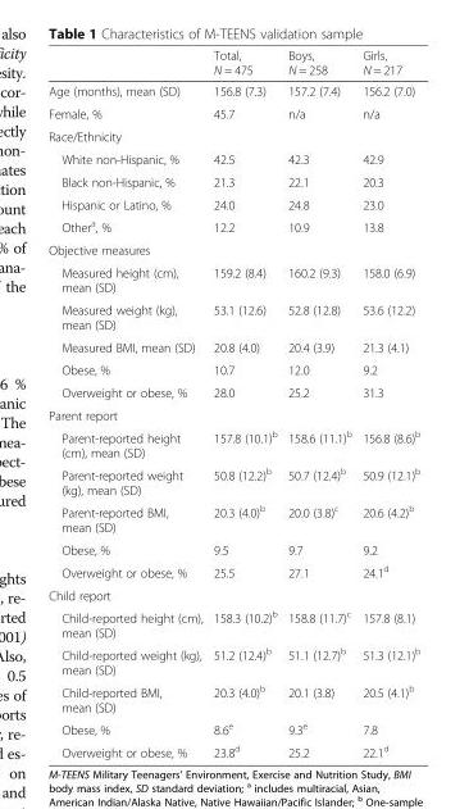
<table><thead><tr><td></td><td>Total, N = 475</td><td>Boys, N = 258</td><td>Girls, N = 217</td></tr></thead><tbody><tr><td>Age (months), mean (SD)</td><td>156.8 (7.3)</td><td>157.2 (7.4)</td><td>156.2 (7.0)</td></tr><tr><td>Female, %</td><td>45.7</td><td>n/a</td><td>n/a</td></tr><tr><td colspan="4">Race/Ethnicity</td></tr><tr><td>White non-Hispanic, %</td><td>42.5</td><td>42.3</td><td>42.9</td></tr><tr><td>Black non-Hispanic, %</td><td>21.3</td><td>22.1</td><td>20.3</td></tr><tr><td>Hispanic or Latino, %</td><td>24.0</td><td>24.8</td><td>23.0</td></tr><tr><td>Other<sup>a</sup>, %</td><td>12.2</td><td>10.9</td><td>13.8</td></tr><tr><td colspan="4">Objective measures</td></tr><tr><td>Measured height (cm), mean (SD)</td><td>159.2 (8.4)</td><td>160.2 (9.3)</td><td>158.0 (6.9)</td></tr><tr><td>Measured weight (kg), mean (SD)</td><td>53.1 (12.6)</td><td>52.8 (12.8)</td><td>53.6 (12.2)</td></tr><tr><td>Measured BMI, mean (SD)</td><td>20.8 (4.0)</td><td>20.4 (3.9)</td><td>21.3 (4.1)</td></tr><tr><td>Obese, %</td><td>10.7</td><td>12.0</td><td>9.2</td></tr><tr><td>Overweight or obese, %</td><td>28.0</td><td>25.2</td><td>31.3</td></tr><tr><td colspan="4">Parent report</td></tr><tr><td>Parent-reported height (cm), mean (SD)</td><td>157.8 (10.1)<sup>b</sup></td><td>158.6 (11.1)<sup>b</sup></td><td>156.8 (8.6)<sup>b</sup></td></tr><tr><td>Parent-reported weight (kg), mean (SD)</td><td>50.8 (12.2)<sup>b</sup></td><td>50.7 (12.4)<sup>b</sup></td><td>50.9 (12.1)<sup>b</sup></td></tr><tr><td>Parent-reported BMI, mean (SD)</td><td>20.3 (4.0)<sup>b</sup></td><td>20.0 (3.8)<sup>c</sup></td><td>20.6 (4.2)<sup>b</sup></td></tr><tr><td>Obese, %</td><td>9.5</td><td>9.7</td><td>9.2</td></tr><tr><td>Overweight or obese, %</td><td>25.5</td><td>27.1</td><td>24.1<sup>d</sup></td></tr><tr><td colspan="4">Child report</td></tr><tr><td>Child-reported height (cm), mean (SD)</td><td>158.3 (10.2)<sup>b</sup></td><td>158.8 (11.7)<sup>c</sup></td><td>157.8 (8.1)</td></tr><tr><td>Child-reported weight (kg), mean (SD)</td><td>51.2 (12.4)<sup>b</sup></td><td>51.1 (12.7)<sup>b</sup></td><td>51.3 (12.1)<sup>b</sup></td></tr><tr><td>Child-reported BMI, mean (SD)</td><td>20.3 (4.0)<sup>b</sup></td><td>20.1 (3.8)</td><td>20.5 (4.1)<sup>b</sup></td></tr><tr><td>Obese, %</td><td>8.6<sup>e</sup></td><td>9.3<sup>e</sup></td><td>7.8</td></tr><tr><td>Overweight or obese, %</td><td>23.8<sup>d</sup></td><td>25.2</td><td>22.1<sup>d</sup></td></tr></tbody></table>